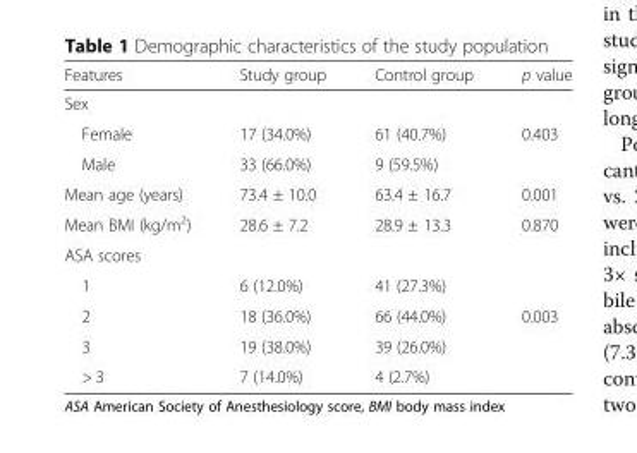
<table><thead><tr><td>Features</td><td>Study group</td><td>Control group</td><td>p value</td></tr></thead><tbody><tr><td colspan="4">Sex</td></tr><tr><td>Female</td><td>17 (34.0%)</td><td>61 (40.7%)</td><td>0.403</td></tr><tr><td>Male</td><td>33 (66.0%)</td><td>9 (59.5%)</td><td></td></tr><tr><td>Mean age (years)</td><td>73.4 ± 10.0</td><td>63.4 ± 16.7</td><td>0.001</td></tr><tr><td>Mean BMI (kg/m<sup>2</sup>)</td><td>28.6 ± 7.2</td><td>28.9 ± 13.3</td><td>0.870</td></tr><tr><td colspan="4">ASA scores</td></tr><tr><td>1</td><td>6 (12.0%)</td><td>41 (27.3%)</td><td></td></tr><tr><td>2</td><td>18 (36.0%)</td><td>66 (44.0%)</td><td>0.003</td></tr><tr><td>3</td><td>19 (38.0%)</td><td>39 (26.0%)</td><td></td></tr><tr><td>&gt; 3</td><td>7 (14.0%)</td><td>4 (2.7%)</td><td></td></tr></tbody></table>